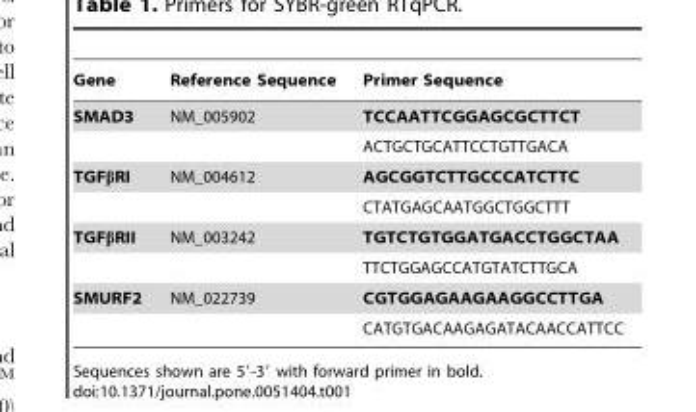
<table><thead><tr><td>Gene</td><td>Reference Sequence</td><td>Primer Sequence</td></tr></thead><tbody><tr><td rowspan="2">SMAD3</td><td>NM_005902</td><td>TCCAATTCGGAGCGCTTCT</td></tr><tr><td></td><td>ACTGCTGCATTCCTGTTGACA</td></tr><tr><td rowspan="2">TGFβRI</td><td>NM_004612</td><td>AGCGGTCTTGCCCATCTTC</td></tr><tr><td></td><td>CTATGAGCAATGGCTGGCTTT</td></tr><tr><td rowspan="2">TGFβRII</td><td>NM_003242</td><td>TGTCTGTGGATGACCTGGCTAA</td></tr><tr><td></td><td>TTCTGGAGCCATGTATCTTGCA</td></tr><tr><td rowspan="2">SMURF2</td><td>NM_022739</td><td>CGTGGAGAAGAAGGCCTTGA</td></tr><tr><td></td><td>CATGTGACAAGAGATACAACCATTCC</td></tr></tbody></table>